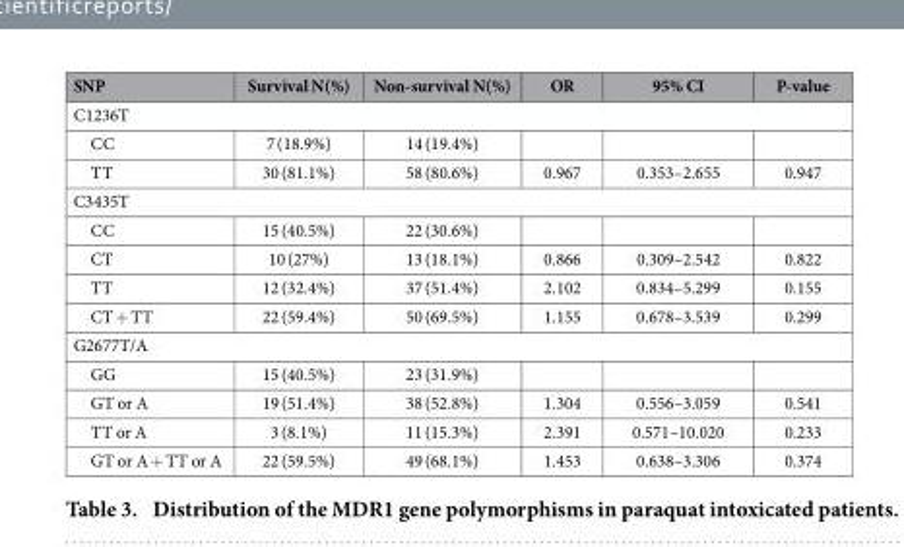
<table><thead><tr><td>SNP</td><td>Survival N(%)</td><td>Non-survival N(%)</td><td>OR</td><td>95% CI</td><td>P-value</td></tr></thead><tbody><tr><td colspan="6">C1236T</td></tr><tr><td>CC</td><td>7 (18.9%)</td><td>14 (19.4%)</td><td></td><td></td><td></td></tr><tr><td>TT</td><td>30 (81.1%)</td><td>58 (80.6%)</td><td>0.967</td><td>0.353–2.655</td><td>0.947</td></tr><tr><td colspan="6">C3435T</td></tr><tr><td>CC</td><td>15 (40.5%)</td><td>22 (30.6%)</td><td></td><td></td><td></td></tr><tr><td>CT</td><td>10 (27%)</td><td>13 (18.1%)</td><td>0.866</td><td>0.309–2.542</td><td>0.822</td></tr><tr><td>TT</td><td>12 (32.4%)</td><td>37 (51.4%)</td><td>2.102</td><td>0.834–5.299</td><td>0.155</td></tr><tr><td>CT + TT</td><td>22 (59.4%)</td><td>50 (69.5%)</td><td>1.155</td><td>0.678–3.539</td><td>0.299</td></tr><tr><td colspan="6">G2677T/A</td></tr><tr><td>GG</td><td>15 (40.5%)</td><td>23 (31.9%)</td><td></td><td></td><td></td></tr><tr><td>GT or A</td><td>19 (51.4%)</td><td>38 (52.8%)</td><td>1.304</td><td>0.556–3.059</td><td>0.541</td></tr><tr><td>TT or A</td><td>3 (8.1%)</td><td>11 (15.3%)</td><td>2.391</td><td>0.571–10.020</td><td>0.233</td></tr><tr><td>GT or A + TT or A</td><td>22 (59.5%)</td><td>49 (68.1%)</td><td>1.453</td><td>0.638–3.306</td><td>0.374</td></tr></tbody></table>